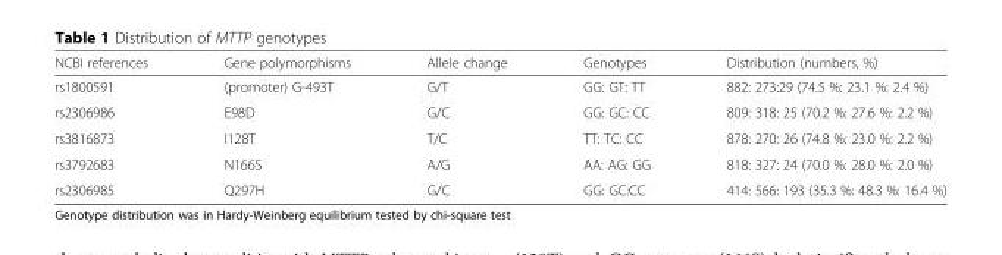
<table><thead><tr><td>NCBI references</td><td>Gene polymorphisms</td><td>Allele change</td><td>Genotypes</td><td>Distribution (numbers, %)</td></tr></thead><tbody><tr><td>rs1800591</td><td>(promoter) G-493T</td><td>G/T</td><td>GG: GT: TT</td><td>882: 273:29 (74.5 %: 23.1 %: 2.4 %)</td></tr><tr><td>rs2306986</td><td>E98D</td><td>G/C</td><td>GG: GC: CC</td><td>809: 318: 25 (70.2 %: 27.6 %: 2.2 %)</td></tr><tr><td>rs3816873</td><td>I128T</td><td>T/C</td><td>TT: TC: CC</td><td>878: 270: 26 (74.8 %: 23.0 %: 2.2 %)</td></tr><tr><td>rs3792683</td><td>N166S</td><td>A/G</td><td>AA: AG: GG</td><td>818: 327: 24 (70.0 %: 28.0 %: 2.0 %)</td></tr><tr><td>rs2306985</td><td>Q297H</td><td>G/C</td><td>GG: GC:CC</td><td>414: 566: 193 (35.3 %: 48.3 %: 16.4 %)</td></tr></tbody></table>